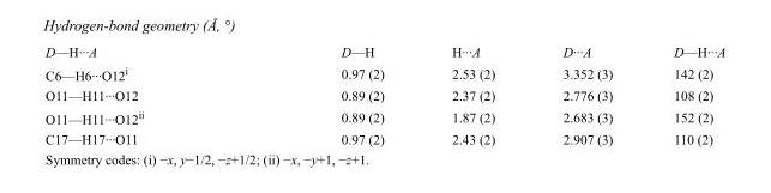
<table><tbody><tr><td>D—H···A</td><td>D—H</td><td>H···A</td><td>D···A</td><td>D—H···A</td></tr><tr><td>C6—H6···O12<sup>i</sup></td><td>0.97 (2)</td><td>2.53 (2)</td><td>3.352 (3)</td><td>142 (2)</td></tr><tr><td>O11—H11···O12</td><td>0.89 (2)</td><td>2.37 (2)</td><td>2.776 (3)</td><td>108 (2)</td></tr><tr><td>O11—H11···O12<sup>ii</sup></td><td>0.89 (2)</td><td>1.87 (2)</td><td>2.683 (3)</td><td>152 (2)</td></tr><tr><td>C17—H17···O11</td><td>0.97 (2)</td><td>2.43 (2)</td><td>2.907 (3)</td><td>110 (2)</td></tr></tbody></table>